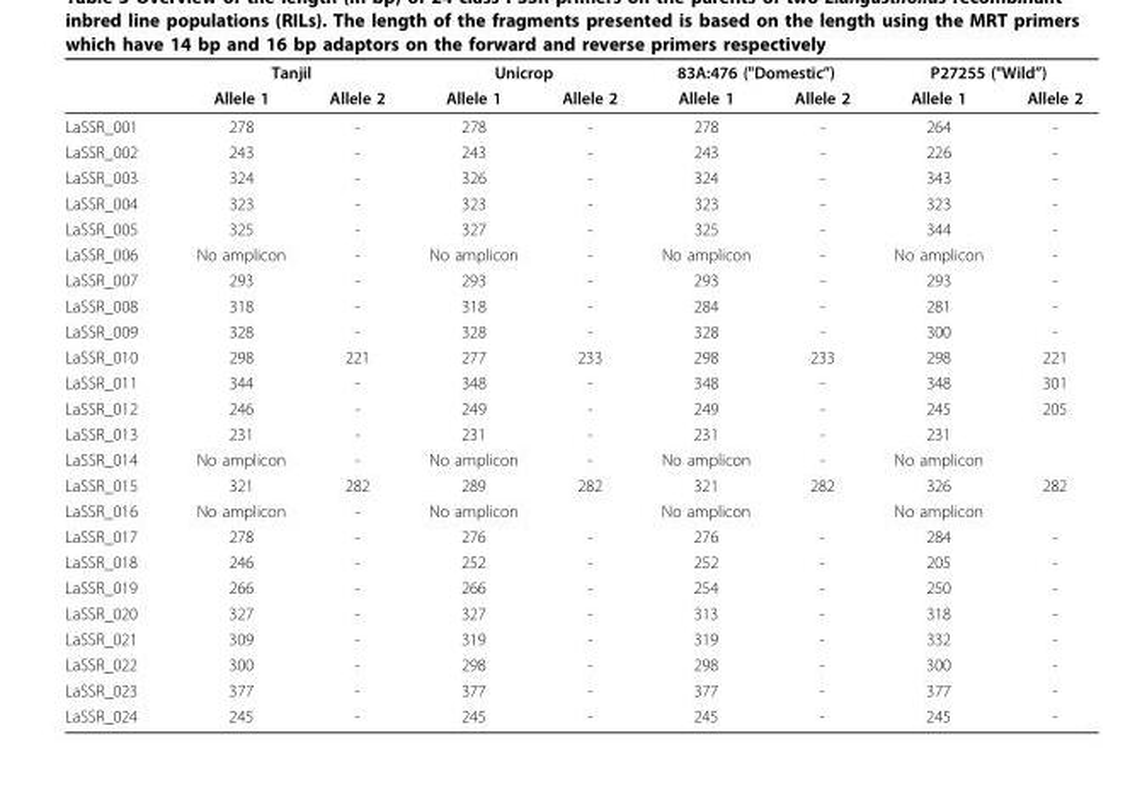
<table><thead><tr><td rowspan="2"></td><td colspan="2">Tanjil</td><td colspan="2">Unicrop</td><td colspan="2">83A:476 (&quot;Domestic”)</td><td colspan="2">P27255 (&quot;Wild”)</td></tr><tr><td>Allele 1</td><td>Allele 2</td><td>Allele 1</td><td>Allele 2</td><td>Allele 1</td><td>Allele 2</td><td>Allele 1</td><td>Allele 2</td></tr></thead><tbody><tr><td>LaSSR_001</td><td>278</td><td>-</td><td>278</td><td>-</td><td>278</td><td>-</td><td>264</td><td>-</td></tr><tr><td>LaSSR_002</td><td>243</td><td>-</td><td>243</td><td>-</td><td>243</td><td>-</td><td>226</td><td>-</td></tr><tr><td>LaSSR_003</td><td>324</td><td>-</td><td>326</td><td>-</td><td>324</td><td>-</td><td>343</td><td>-</td></tr><tr><td>LaSSR_004</td><td>323</td><td>-</td><td>323</td><td>-</td><td>323</td><td>-</td><td>323</td><td>-</td></tr><tr><td>LaSSR_005</td><td>325</td><td>-</td><td>327</td><td>-</td><td>325</td><td>-</td><td>344</td><td>-</td></tr><tr><td>LaSSR_006</td><td>No amplicon</td><td>-</td><td>No amplicon</td><td>-</td><td>No amplicon</td><td>-</td><td>No amplicon</td><td>-</td></tr><tr><td>LaSSR_007</td><td>293</td><td>-</td><td>293</td><td>-</td><td>293</td><td>-</td><td>293</td><td>-</td></tr><tr><td>LaSSR_008</td><td>318</td><td>-</td><td>318</td><td>-</td><td>284</td><td>-</td><td>281</td><td>-</td></tr><tr><td>LaSSR_009</td><td>328</td><td>-</td><td>328</td><td>-</td><td>328</td><td>-</td><td>300</td><td>-</td></tr><tr><td>LaSSR_010</td><td>298</td><td>221</td><td>277</td><td>233</td><td>298</td><td>233</td><td>298</td><td>221</td></tr><tr><td>LaSSR_011</td><td>344</td><td>-</td><td>348</td><td>-</td><td>348</td><td>-</td><td>348</td><td>301</td></tr><tr><td>LaSSR_012</td><td>246</td><td>-</td><td>249</td><td>-</td><td>249</td><td>-</td><td>245</td><td>205</td></tr><tr><td>LaSSR_013</td><td>231</td><td>-</td><td>231</td><td>-</td><td>231</td><td>-</td><td>231</td><td></td></tr><tr><td>LaSSR_014</td><td>No amplicon</td><td>-</td><td>No amplicon</td><td>-</td><td>No amplicon</td><td>-</td><td>No amplicon</td><td></td></tr><tr><td>LaSSR_015</td><td>321</td><td>282</td><td>289</td><td>282</td><td>321</td><td>282</td><td>326</td><td>282</td></tr><tr><td>LaSSR_016</td><td>No amplicon</td><td>-</td><td>No amplicon</td><td></td><td>No amplicon</td><td></td><td>No amplicon</td><td></td></tr><tr><td>LaSSR_017</td><td>278</td><td>-</td><td>276</td><td>-</td><td>276</td><td>-</td><td>284</td><td>-</td></tr><tr><td>LaSSR_018</td><td>246</td><td>-</td><td>252</td><td>-</td><td>252</td><td>-</td><td>205</td><td>-</td></tr><tr><td>LaSSR_019</td><td>266</td><td>-</td><td>266</td><td>-</td><td>254</td><td>-</td><td>250</td><td>-</td></tr><tr><td>LaSSR_020</td><td>327</td><td>-</td><td>327</td><td>-</td><td>313</td><td>-</td><td>318</td><td>-</td></tr><tr><td>LaSSR_021</td><td>309</td><td>-</td><td>319</td><td>-</td><td>319</td><td>-</td><td>332</td><td>-</td></tr><tr><td>LaSSR_022</td><td>300</td><td>-</td><td>298</td><td>-</td><td>298</td><td>-</td><td>300</td><td>-</td></tr><tr><td>LaSSR_023</td><td>377</td><td>-</td><td>377</td><td>-</td><td>377</td><td>-</td><td>377</td><td>-</td></tr><tr><td>LaSSR_024</td><td>245</td><td>-</td><td>245</td><td>-</td><td>245</td><td>-</td><td>245</td><td>-</td></tr></tbody></table>